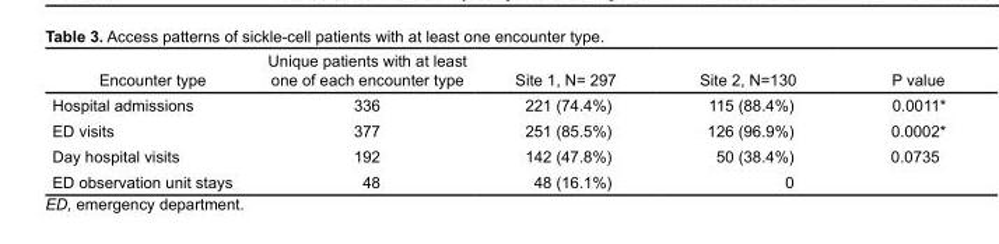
<table><thead><tr><td>Encounter type</td><td>Unique patients with at least one of each encounter type</td><td>Site 1, N= 297</td><td>Site 2, N=130</td><td>P value</td></tr></thead><tbody><tr><td>Hospital admissions</td><td>336</td><td>221 (74.4%)</td><td>115 (88.4%)</td><td>0.0011*</td></tr><tr><td>ED visits</td><td>377</td><td>251 (85.5%)</td><td>126 (96.9%)</td><td>0.0002*</td></tr><tr><td>Day hospital visits</td><td>192</td><td>142 (47.8%)</td><td>50 (38.4%)</td><td>0.0735</td></tr><tr><td>ED observation unit stays</td><td>48</td><td>48 (16.1%)</td><td>0</td><td></td></tr></tbody></table>